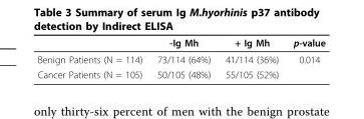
<table><thead><tr><td></td><td>-Ig Mh</td><td>+ Ig Mh</td><td>p-value</td></tr></thead><tbody><tr><td>Benign Patients (N = 114)</td><td>73/114 (64%)</td><td>41/114 (36%)</td><td>0.014</td></tr><tr><td>Cancer Patients (N = 105)</td><td>50/105 (48%)</td><td>55/105 (52%)</td><td></td></tr></tbody></table>